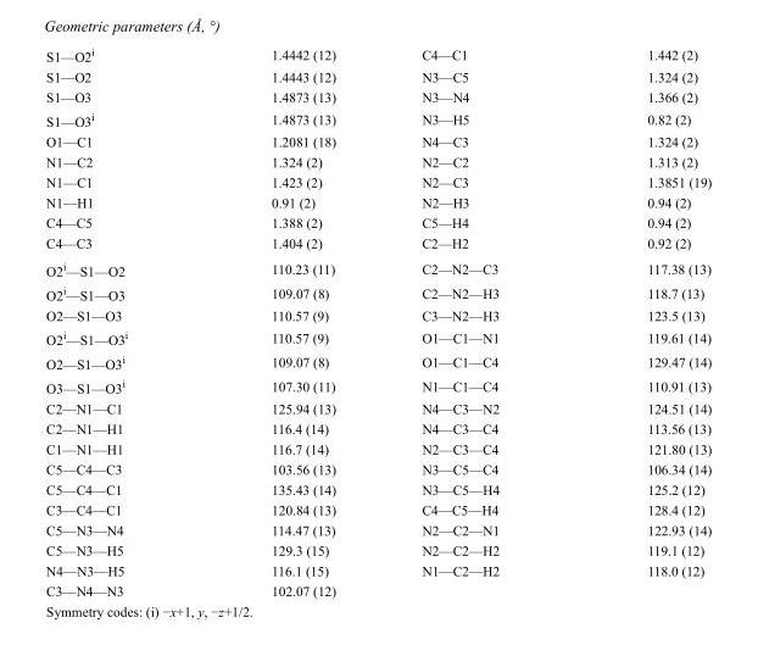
<table><tbody><tr><td>S1—O2<sup>i</sup></td><td>1.4442 (12)</td><td>C4—C1</td><td>1.442 (2)</td></tr><tr><td>S1—O2</td><td>1.4443 (12)</td><td>N3—C5</td><td>1.324 (2)</td></tr><tr><td>S1—O3</td><td>1.4873 (13)</td><td>N3—N4</td><td>1.366 (2)</td></tr><tr><td>S1—O3<sup>i</sup></td><td>1.4873 (13)</td><td>N3—H5</td><td>0.82 (2)</td></tr><tr><td>O1—C1</td><td>1.2081 (18)</td><td>N4—C3</td><td>1.324 (2)</td></tr><tr><td>N1—C2</td><td>1.324 (2)</td><td>N2—C2</td><td>1.313 (2)</td></tr><tr><td>N1—C1</td><td>1.423 (2)</td><td>N2—C3</td><td>1.3851 (19)</td></tr><tr><td>N1—H1</td><td>0.91 (2)</td><td>N2—H3</td><td>0.94 (2)</td></tr><tr><td>C4—C5</td><td>1.388 (2)</td><td>C5—H4</td><td>0.94 (2)</td></tr><tr><td>C4—C3</td><td>1.404 (2)</td><td>C2—H2</td><td>0.92 (2)</td></tr><tr><td>O2<sup>i</sup>—S1—O2</td><td>110.23 (11)</td><td>C2—N2—C3</td><td>117.38 (13)</td></tr><tr><td>O2<sup>i</sup>—S1—O3</td><td>109.07 (8)</td><td>C2—N2—H3</td><td>118.7 (13)</td></tr><tr><td>O2—S1—O3</td><td>110.57 (9)</td><td>C3—N2—H3</td><td>123.5 (13)</td></tr><tr><td>O2<sup>i</sup>—S1—O3<sup>i</sup></td><td>110.57 (9)</td><td>O1—C1—N1</td><td>119.61 (14)</td></tr><tr><td>O2—S1—O3<sup>i</sup></td><td>109.07 (8)</td><td>O1—C1—C4</td><td>129.47 (14)</td></tr><tr><td>O3—S1—O3<sup>i</sup></td><td>107.30 (11)</td><td>N1—C1—C4</td><td>110.91 (13)</td></tr><tr><td>C2—N1—C1</td><td>125.94 (13)</td><td>N4—C3—N2</td><td>124.51 (14)</td></tr><tr><td>C2—N1—H1</td><td>116.4 (14)</td><td>N4—C3—C4</td><td>113.56 (13)</td></tr><tr><td>C1—N1—H1</td><td>116.7 (14)</td><td>N2—C3—C4</td><td>121.80 (13)</td></tr><tr><td>C5—C4—C3</td><td>103.56 (13)</td><td>N3—C5—C4</td><td>106.34 (14)</td></tr><tr><td>C5—C4—C1</td><td>135.43 (14)</td><td>N3—C5—H4</td><td>125.2 (12)</td></tr><tr><td>C3—C4—C1</td><td>120.84 (13)</td><td>C4—C5—H4</td><td>128.4 (12)</td></tr><tr><td>C5—N3—N4</td><td>114.47 (13)</td><td>N2—C2—N1</td><td>122.93 (14)</td></tr><tr><td>C5—N3—H5</td><td>129.3 (15)</td><td>N2—C2—H2</td><td>119.1 (12)</td></tr><tr><td>N4—N3—H5</td><td>116.1 (15)</td><td>N1—C2—H2</td><td>118.0 (12)</td></tr><tr><td>C3—N4—N3</td><td>102.07 (12)</td><td></td><td></td></tr></tbody></table>